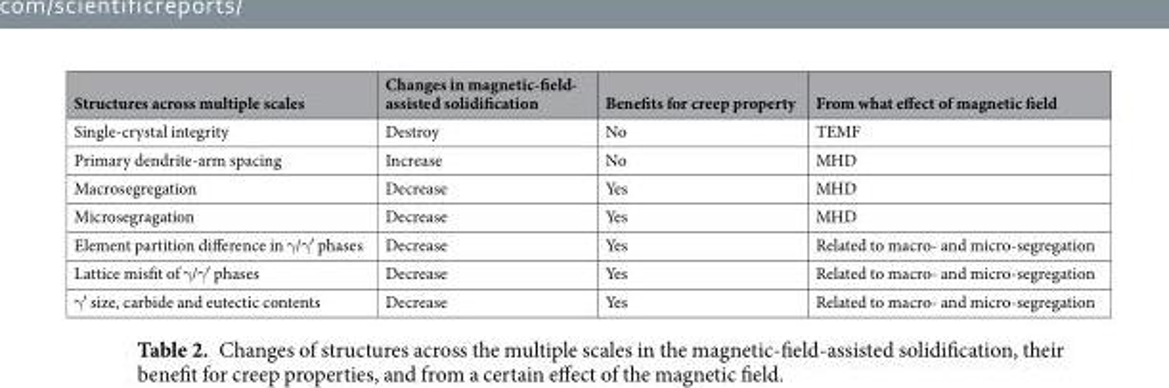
<table><thead><tr><td>Structures across multiple scales</td><td>Changes in magnetic-field- assisted solidification</td><td>Benefits for creep property</td><td>From what effect of magnetic field</td></tr></thead><tbody><tr><td>Single-crystal integrity</td><td>Destroy</td><td>No</td><td>TEMF</td></tr><tr><td>Primary dendrite-arm spacing</td><td>Increase</td><td>No</td><td>MHD</td></tr><tr><td>Macrosegregation</td><td>Decrease</td><td>Yes</td><td>MHD</td></tr><tr><td>Microsegragation</td><td>Decrease</td><td>Yes</td><td>MHD</td></tr><tr><td>Element partition difference in γ/γ′ phases</td><td>Decrease</td><td>Yes</td><td>Related to macro- and micro-segregation</td></tr><tr><td>Lattice misfit of γ/γ′ phases</td><td>Decrease</td><td>Yes</td><td>Related to macro- and micro-segregation</td></tr><tr><td>γ′ size, carbide and eutectic contents</td><td>Decrease</td><td>Yes</td><td>Related to macro- and micro-segregation</td></tr></tbody></table>